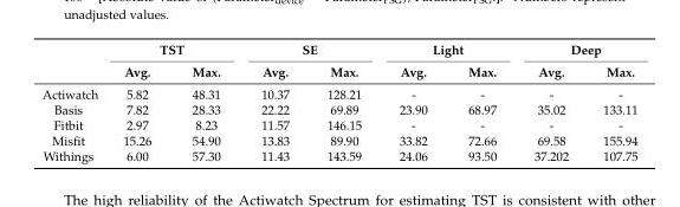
<table><thead><tr><td rowspan="2"></td><td colspan="2">TST</td><td colspan="2">SE</td><td colspan="2">Light</td><td colspan="2">Deep</td></tr><tr><td>Avg.</td><td>Max.</td><td>Avg.</td><td>Max.</td><td>Avg.</td><td>Max.</td><td>Avg.</td><td>Max.</td></tr></thead><tbody><tr><td>Actiwatch</td><td>5.82</td><td>48.31</td><td>10.37</td><td>128.21</td><td>-</td><td>-</td><td>-</td><td>-</td></tr><tr><td>Basis</td><td>7.82</td><td>28.33</td><td>22.22</td><td>69.89</td><td>23.90</td><td>68.97</td><td>35.02</td><td>133.11</td></tr><tr><td>Fitbit</td><td>2.97</td><td>8.23</td><td>11.57</td><td>146.15</td><td>-</td><td>-</td><td>-</td><td>-</td></tr><tr><td>Misfit</td><td>15.26</td><td>54.90</td><td>13.83</td><td>89.90</td><td>33.82</td><td>72.66</td><td>69.58</td><td>155.94</td></tr><tr><td>Withings</td><td>6.00</td><td>57.30</td><td>11.43</td><td>143.59</td><td>24.06</td><td>93.50</td><td>37.202</td><td>107.75</td></tr></tbody></table>